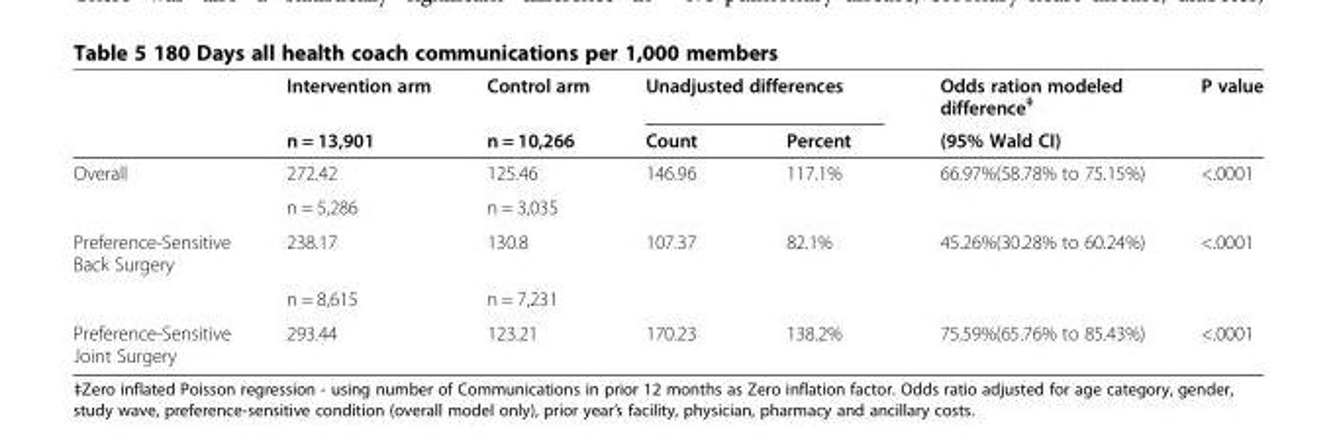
<table><thead><tr><td rowspan="2"></td><td rowspan="2">Intervention arm n = 13,901</td><td rowspan="2">Control arm n = 10,266</td><td colspan="2">Unadjusted differences</td><td rowspan="2">Odds ration modeled difference<sup>‡</sup> (95% Wald CI)</td><td rowspan="2">P value</td></tr><tr><td>Count</td><td>Percent</td></tr></thead><tbody><tr><td rowspan="2">Overall</td><td>272.42</td><td>125.46</td><td>146.96</td><td>117.1%</td><td>66.97%(58.78% to 75.15%)</td><td>&lt;.0001</td></tr><tr><td>n = 5,286</td><td>n = 3,035</td><td></td><td></td><td></td><td></td></tr><tr><td rowspan="2">Preference-Sensitive Back Surgery</td><td>238.17</td><td>130.8</td><td>107.37</td><td>82.1%</td><td>45.26%(30.28% to 60.24%)</td><td>&lt;.0001</td></tr><tr><td>n = 8,615</td><td>n = 7,231</td><td></td><td></td><td></td><td></td></tr><tr><td>Preference-Sensitive Joint Surgery</td><td>293.44</td><td>123.21</td><td>170.23</td><td>138.2%</td><td>75.59%(65.76% to 85.43%)</td><td>&lt;.0001</td></tr></tbody></table>